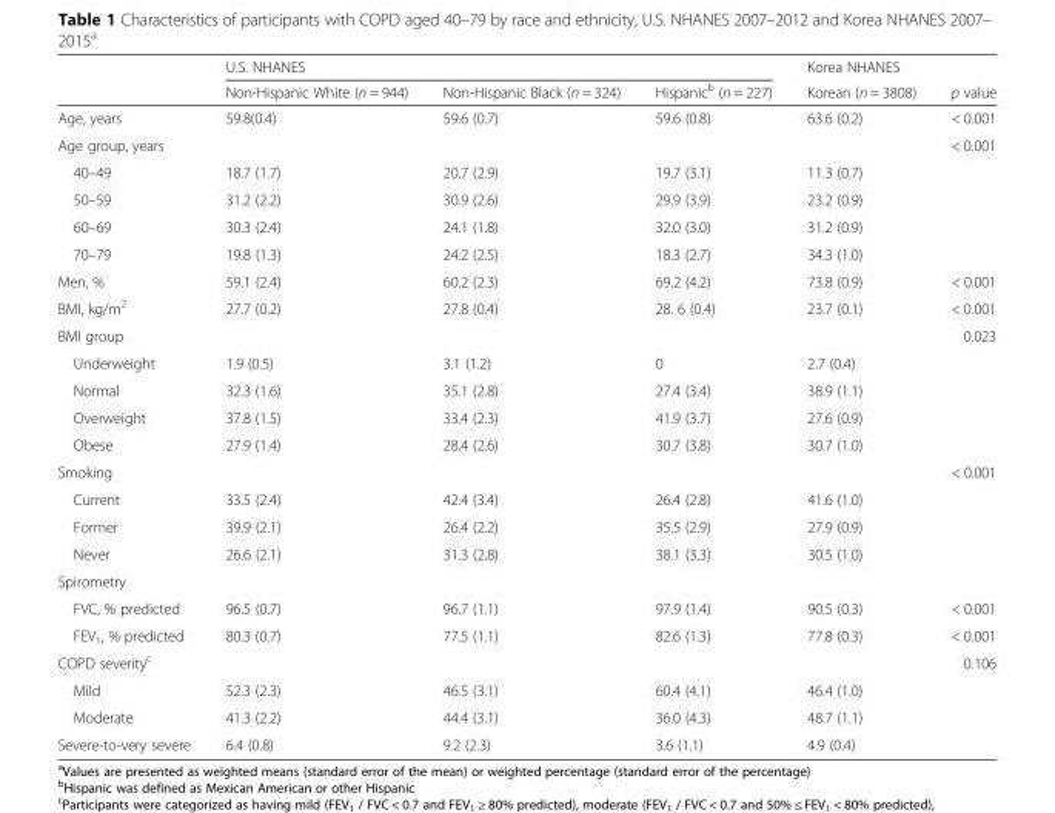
<table><thead><tr><td rowspan="2"></td><td colspan="3">U.S. NHANES</td><td rowspan="2">Korea NHANES Korean (n = 3808)</td><td rowspan="2">p value</td></tr><tr><td>Non-Hispanic White (n = 944)</td><td>Non-Hispanic Black (n = 324)</td><td>Hispanic<sup>b</sup> (n = 227)</td></tr></thead><tbody><tr><td>Age, years</td><td>59.8(0.4)</td><td>59.6 (0.7)</td><td>59.6 (0.8)</td><td>63.6 (0.2)</td><td>&lt; 0.001</td></tr><tr><td colspan="5">Age group, years</td><td>&lt; 0.001</td></tr><tr><td>40–49</td><td>18.7 (1.7)</td><td>20.7 (2.9)</td><td>19.7 (3.1)</td><td>11.3 (0.7)</td><td></td></tr><tr><td>50–59</td><td>31.2 (2.2)</td><td>30.9 (2.6)</td><td>29.9 (3.9)</td><td>23.2 (0.9)</td><td></td></tr><tr><td>60–69</td><td>30.3 (2.4)</td><td>24.1 (1.8)</td><td>32.0 (3.0)</td><td>31.2 (0.9)</td><td></td></tr><tr><td>70–79</td><td>19.8 (1.3)</td><td>24.2 (2.5)</td><td>18.3 (2.7)</td><td>34.3 (1.0)</td><td></td></tr><tr><td>Men, %</td><td>59.1 (2.4)</td><td>60.2 (2.3)</td><td>69.2 (4.2)</td><td>73.8 (0.9)</td><td>&lt; 0.001</td></tr><tr><td>BMI, kg/m<sup>2</sup></td><td>27.7 (0.2)</td><td>27.8 (0.4)</td><td>28. 6 (0.4)</td><td>23.7 (0.1)</td><td>&lt; 0.001</td></tr><tr><td colspan="5">BMI group</td><td>0.023</td></tr><tr><td>Underweight</td><td>1.9 (0.5)</td><td>3.1 (1.2)</td><td>0</td><td>2.7 (0.4)</td><td></td></tr><tr><td>Normal</td><td>32.3 (1.6)</td><td>35.1 (2.8)</td><td>27.4 (3.4)</td><td>38.9 (1.1)</td><td></td></tr><tr><td>Overweight</td><td>37.8 (1.5)</td><td>33.4 (2.3)</td><td>41.9 (3.7)</td><td>27.6 (0.9)</td><td></td></tr><tr><td>Obese</td><td>27.9 (1.4)</td><td>28.4 (2.6)</td><td>30.7 (3.8)</td><td>30.7 (1.0)</td><td></td></tr><tr><td colspan="5">Smoking</td><td>&lt; 0.001</td></tr><tr><td>Current</td><td>33.5 (2.4)</td><td>42.4 (3.4)</td><td>26.4 (2.8)</td><td>41.6 (1.0)</td><td></td></tr><tr><td>Former</td><td>39.9 (2.1)</td><td>26.4 (2.2)</td><td>35.5 (2.9)</td><td>27.9 (0.9)</td><td></td></tr><tr><td>Never</td><td>26.6 (2.1)</td><td>31.3 (2.8)</td><td>38.1 (3.3)</td><td>30.5 (1.0)</td><td></td></tr><tr><td colspan="6">Spirometry</td></tr><tr><td>FVC, % predicted</td><td>96.5 (0.7)</td><td>96.7 (1.1)</td><td>97.9 (1.4)</td><td>90.5 (0.3)</td><td>&lt; 0.001</td></tr><tr><td>FEV<sub>1</sub>, % predicted</td><td>80.3 (0.7)</td><td>77.5 (1.1)</td><td>82.6 (1.3)</td><td>77.8 (0.3)</td><td>&lt; 0.001</td></tr><tr><td colspan="5">COPD severity<sup>c</sup></td><td>0.106</td></tr><tr><td>Mild</td><td>52.3 (2.3)</td><td>46.5 (3.1)</td><td>60.4 (4.1)</td><td>46.4 (1.0)</td><td></td></tr><tr><td>Moderate</td><td>41.3 (2.2)</td><td>44.4 (3.1)</td><td>36.0 (4.3)</td><td>48.7 (1.1)</td><td></td></tr><tr><td>Severe-to-very severe</td><td>6.4 (0.8)</td><td>9.2 (2.3)</td><td>3.6 (1.1)</td><td>4.9 (0.4)</td><td></td></tr></tbody></table>